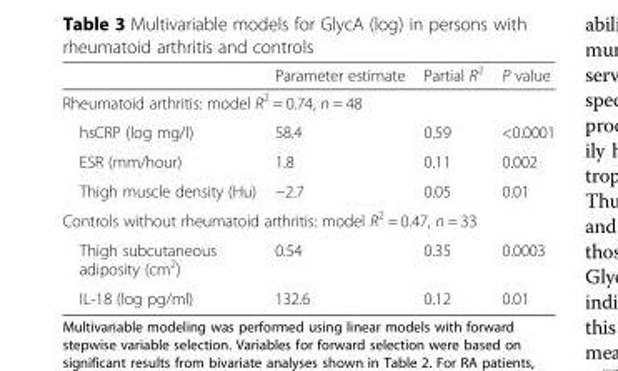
<table><thead><tr><td></td><td>Parameter estimate</td><td>Partial R<sup>2</sup></td><td>P value</td></tr></thead><tbody><tr><td colspan="4">Rheumatoid arthritis: model R<sup>2</sup> = 0.74, n = 48</td></tr><tr><td>hsCRP (log mg/l)</td><td>58.4</td><td>0.59</td><td>&lt;0.0001</td></tr><tr><td>ESR (mm/hour)</td><td>1.8</td><td>0.11</td><td>0.002</td></tr><tr><td>Thigh muscle density (Hu)</td><td>−2.7</td><td>0.05</td><td>0.01</td></tr><tr><td colspan="4">Controls without rheumatoid arthritis: model R<sup>2</sup> = 0.47, n = 33</td></tr><tr><td>Thigh subcutaneous adiposity (cm<sup>2</sup>)</td><td>0.54</td><td>0.35</td><td>0.0003</td></tr><tr><td>IL-18 (log pg/ml)</td><td>132.6</td><td>0.12</td><td>0.01</td></tr></tbody></table>